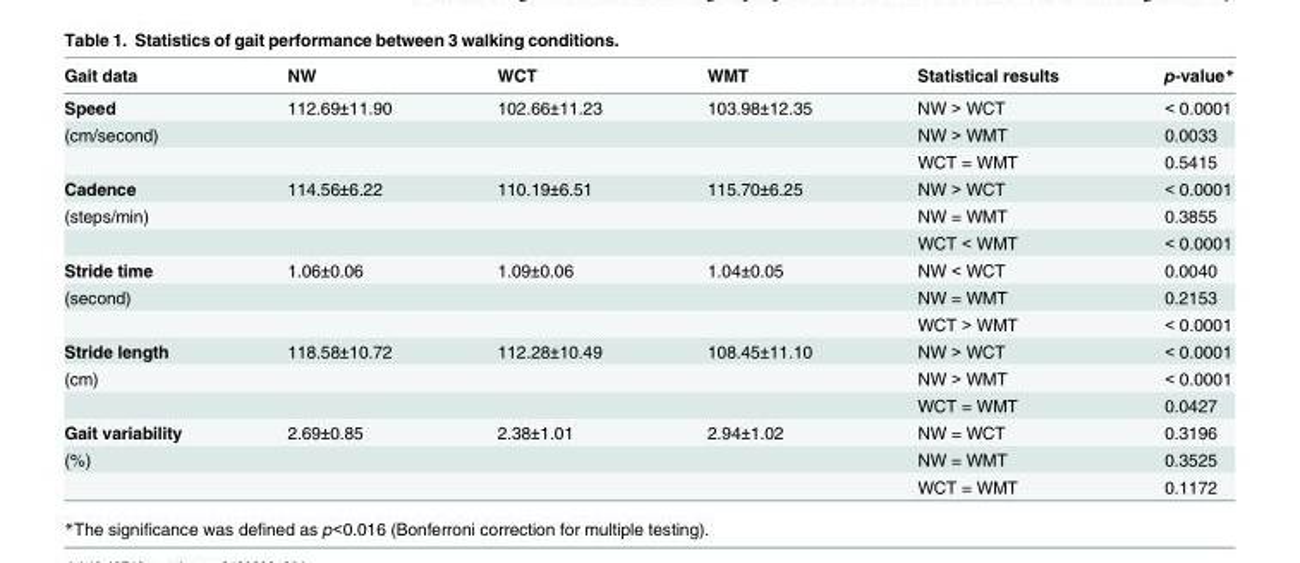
<table><thead><tr><td>Gait data</td><td>NW</td><td>WCT</td><td>WMT</td><td>Statistical results</td><td>p-value*</td></tr></thead><tbody><tr><td>Speed</td><td>112.69±11.90</td><td>102.66±11.23</td><td>103.98±12.35</td><td>NW &gt; WCT</td><td>&lt; 0.0001</td></tr><tr><td rowspan="2">(cm/second)</td><td></td><td></td><td></td><td>NW &gt; WMT</td><td>0.0033</td></tr><tr><td></td><td></td><td></td><td>WCT = WMT</td><td>0.5415</td></tr><tr><td>Cadence</td><td>114.56±6.22</td><td>110.19±6.51</td><td>115.70±6.25</td><td>NW &gt; WCT</td><td>&lt; 0.0001</td></tr><tr><td rowspan="2">(steps/min)</td><td></td><td></td><td></td><td>NW = WMT</td><td>0.3855</td></tr><tr><td></td><td></td><td></td><td>WCT &lt; WMT</td><td>&lt; 0.0001</td></tr><tr><td>Stride time</td><td>1.06±0.06</td><td>1.09±0.06</td><td>1.04±0.05</td><td>NW &lt; WCT</td><td>0.0040</td></tr><tr><td rowspan="2">(second)</td><td></td><td></td><td></td><td>NW = WMT</td><td>0.2153</td></tr><tr><td></td><td></td><td></td><td>WCT &gt; WMT</td><td>&lt; 0.0001</td></tr><tr><td>Stride length</td><td>118.58±10.72</td><td>112.28±10.49</td><td>108.45±11.10</td><td>NW &gt; WCT</td><td>&lt; 0.0001</td></tr><tr><td rowspan="2">(cm)</td><td></td><td></td><td></td><td>NW &gt; WMT</td><td>&lt; 0.0001</td></tr><tr><td></td><td></td><td></td><td>WCT = WMT</td><td>0.0427</td></tr><tr><td>Gait variability</td><td>2.69±0.85</td><td>2.38±1.01</td><td>2.94±1.02</td><td>NW = WCT</td><td>0.3196</td></tr><tr><td rowspan="2">(%)</td><td></td><td></td><td></td><td>NW = WMT</td><td>0.3525</td></tr><tr><td></td><td></td><td></td><td>WCT = WMT</td><td>0.1172</td></tr></tbody></table>